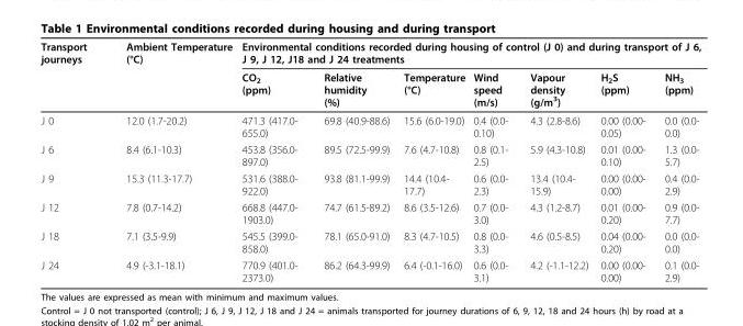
<table><thead><tr><td rowspan="2">Transport journeys</td><td rowspan="2">Ambient Temperature (°C)</td><td colspan="7">Environmental conditions recorded during housing of control (J 0) and during transport of J 6, J 9, J 12, J18 and J 24 treatments</td></tr><tr><td>CO<sub>2</sub> (ppm)</td><td>Relative humidity (%)</td><td>Temperature (°C)</td><td>Wind speed (m/s)</td><td>Vapour density (g/m<sup>3</sup>)</td><td>H<sub>2</sub>S (ppm)</td><td>NH<sub>3</sub> (ppm)</td></tr></thead><tbody><tr><td>J 0</td><td>12.0 (1.7-20.2)</td><td>471.3 (417.0- 655.0)</td><td>69.8 (40.9-88.6)</td><td>15.6 (6.0-19.0)</td><td>0.4 (0.0- 0.10)</td><td>4.3 (2.8-8.6)</td><td>0.00 (0.00- 0.05)</td><td>0.0 (0.0- 0.0)</td></tr><tr><td>J 6</td><td>8.4 (6.1-10.3)</td><td>453.8 (356.0- 897.0)</td><td>89.5 (72.5-99.9)</td><td>7.6 (4.7-10.8)</td><td>0.8 (0.1- 2.5)</td><td>5.9 (4.3-10.8)</td><td>0.01 (0.00- 0.10)</td><td>1.3 (0.0- 5.7)</td></tr><tr><td>J 9</td><td>15.3 (11.3-17.7)</td><td>531.6 (388.0- 922.0)</td><td>93.8 (81.1-99.9)</td><td>14.4 (10.4- 17.7)</td><td>0.6 (0.0- 2.3)</td><td>13.4 (10.4- 15.9)</td><td>0.00 (0.00- 0.00)</td><td>0.4 (0.0- 2.9)</td></tr><tr><td>J 12</td><td>7.8 (0.7-14.2)</td><td>668.8 (447.0- 1903.0)</td><td>74.7 (61.5-89.2)</td><td>8.6 (3.5-12.6)</td><td>0.7 (0.0- 3.0)</td><td>4.3 (1.2-8.7)</td><td>0.01 (0.00- 0.20)</td><td>0.9 (0.0- 7.7)</td></tr><tr><td>J 18</td><td>7.1 (3.5-9.9)</td><td>545.5 (399.0- 858.0)</td><td>78.1 (65.0-91.0)</td><td>8.3 (4.7-10.5)</td><td>0.8 (0.0- 3.3)</td><td>4.6 (0.5-8.5)</td><td>0.04 (0.00- 0.20)</td><td>0.0 (0.0- 0.0)</td></tr><tr><td>J 24</td><td>4.9 (-3.1-18.1)</td><td>770.9 (401.0- 2373.0)</td><td>86.2 (64.3-99.9)</td><td>6.4 (-0.1-16.0)</td><td>0.6 (0.0- 3.1)</td><td>4.2 (-1.1-12.2)</td><td>0.00 (0.00- 0.00)</td><td>0.1 (0.0- 2.9)</td></tr></tbody></table>